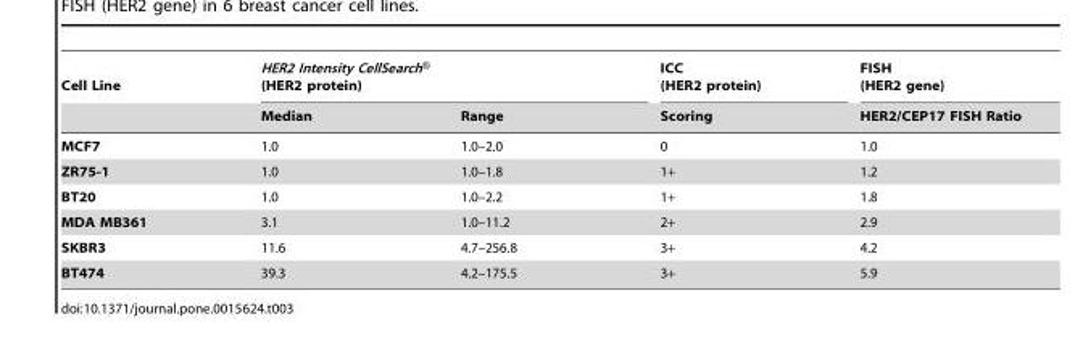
<table><thead><tr><td rowspan="2">Cell Line</td><td colspan="2">HER2 Intensity CellSearch® (HER2 protein)</td><td rowspan="2">ICC (HER2 protein) Scoring</td><td rowspan="2">FISH (HER2 gene) HER2/CEP17 FISH Ratio</td></tr><tr><td>Median</td><td>Range</td></tr></thead><tbody><tr><td>MCF7</td><td>1.0</td><td>1.0–2.0</td><td>0</td><td>1.0</td></tr><tr><td>ZR75-1</td><td>1.0</td><td>1.0–1.8</td><td>1+</td><td>1.2</td></tr><tr><td>BT20</td><td>1.0</td><td>1.0–2.2</td><td>1+</td><td>1.8</td></tr><tr><td>MDA MB361</td><td>3.1</td><td>1.0–11.2</td><td>2+</td><td>2.9</td></tr><tr><td>SKBR3</td><td>11.6</td><td>4.7–256.8</td><td>3+</td><td>4.2</td></tr><tr><td>BT474</td><td>39.3</td><td>4.2–175.5</td><td>3+</td><td>5.9</td></tr></tbody></table>